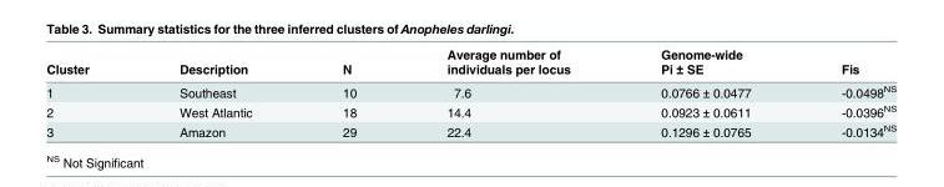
<table><thead><tr><td rowspan="2">Cluster</td><td rowspan="2">Description</td><td rowspan="2">N</td><td rowspan="2">Average number of individuals per locus</td><td rowspan="2">Genome-wide Pi ± SE</td><td rowspan="2">Fis</td></tr><tr></tr></thead><tbody><tr><td>1</td><td>Southeast</td><td>10</td><td>7.6</td><td>0.0766 ± 0.0477</td><td>-0.0498<sup>NS</sup></td></tr><tr><td>2</td><td>West Atlantic</td><td>18</td><td>14.4</td><td>0.0923 ± 0.0611</td><td>-0.0396<sup>NS</sup></td></tr><tr><td>3</td><td>Amazon</td><td>29</td><td>22.4</td><td>0.1296 ± 0.0765</td><td>-0.0134<sup>NS</sup></td></tr></tbody></table>